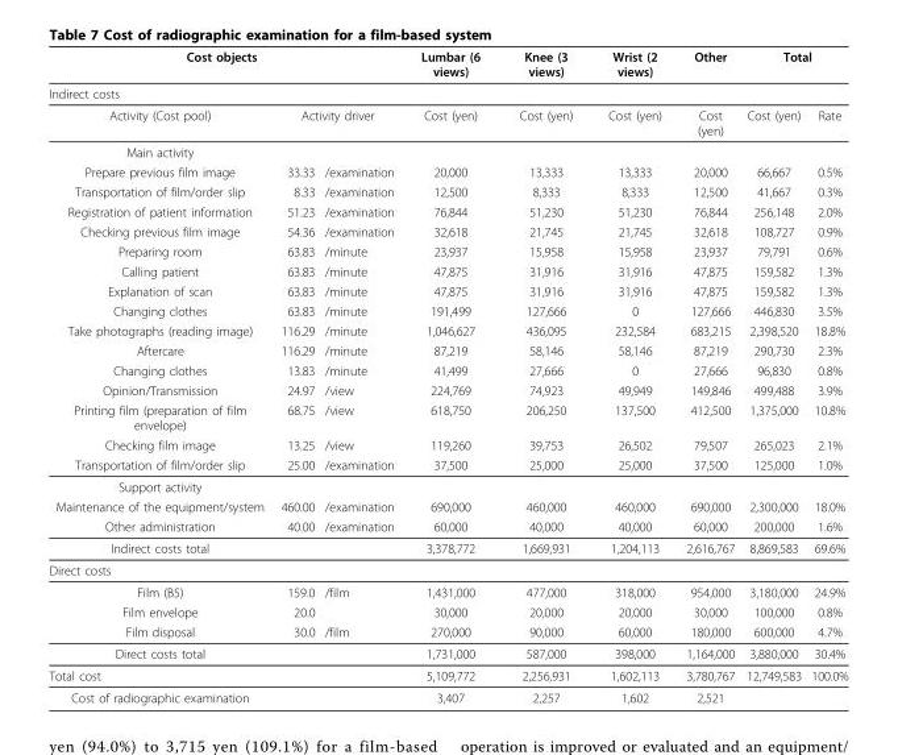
<table><thead><tr><td colspan="3">Cost objects</td><td rowspan="2">Lumbar (6 views)</td><td rowspan="2">Knee (3 views)</td><td rowspan="2">Wrist (2 views)</td><td rowspan="2">Other</td><td colspan="2">Total</td></tr><tr><td>Indirect costs</td><td></td><td></td><td></td><td></td></tr></thead><tbody><tr><td>Activity (Cost pool)</td><td colspan="2">Activity driver</td><td>Cost (yen)</td><td>Cost (yen)</td><td>Cost (yen)</td><td>Cost (yen)</td><td>Cost (yen)</td><td>Rate</td></tr><tr><td colspan="9">Main activity</td></tr><tr><td>Prepare previous film image</td><td>33.33</td><td>/examination</td><td>20,000</td><td>13,333</td><td>13,333</td><td>20,000</td><td>66,667</td><td>0.5%</td></tr><tr><td>Transportation of film/order slip</td><td>8.33</td><td>/examination</td><td>12,500</td><td>8,333</td><td>8,333</td><td>12,500</td><td>41,667</td><td>0.3%</td></tr><tr><td>Registration of patient information</td><td>51.23</td><td>/examination</td><td>76,844</td><td>51,230</td><td>51,230</td><td>76,844</td><td>256,148</td><td>2.0%</td></tr><tr><td>Checking previous film image</td><td>54.36</td><td>/examination</td><td>32,618</td><td>21,745</td><td>21,745</td><td>32,618</td><td>108,727</td><td>0.9%</td></tr><tr><td>Preparing room</td><td>63.83</td><td>/minute</td><td>23,937</td><td>15,958</td><td>15,958</td><td>23,937</td><td>79,791</td><td>0.6%</td></tr><tr><td>Calling patient</td><td>63.83</td><td>/minute</td><td>47,875</td><td>31,916</td><td>31,916</td><td>47,875</td><td>159,582</td><td>1.3%</td></tr><tr><td>Explanation of scan</td><td>63.83</td><td>/minute</td><td>47,875</td><td>31,916</td><td>31,916</td><td>47,875</td><td>159,582</td><td>1.3%</td></tr><tr><td>Changing clothes</td><td>63.83</td><td>/minute</td><td>191,499</td><td>127,666</td><td>0</td><td>127,666</td><td>446,830</td><td>3.5%</td></tr><tr><td>Take photographs (reading image)</td><td>116.29</td><td>/minute</td><td>1,046,627</td><td>436,095</td><td>232,584</td><td>683,215</td><td>2,398,520</td><td>18.8%</td></tr><tr><td>Aftercare</td><td>116.29</td><td>/minute</td><td>87,219</td><td>58,146</td><td>58,146</td><td>87,219</td><td>290,730</td><td>2.3%</td></tr><tr><td>Changing clothes</td><td>13.83</td><td>/minute</td><td>41,499</td><td>27,666</td><td>0</td><td>27,666</td><td>96,830</td><td>0.8%</td></tr><tr><td>Opinion/Transmission</td><td>24.97</td><td>/view</td><td>224,769</td><td>74,923</td><td>49,949</td><td>149,846</td><td>499,488</td><td>3.9%</td></tr><tr><td>Printing film (preparation of film envelope)</td><td>68.75</td><td>/view</td><td>618,750</td><td>206,250</td><td>137,500</td><td>412,500</td><td>1,375,000</td><td>10.8%</td></tr><tr><td>Checking film image</td><td>13.25</td><td>/view</td><td>119,260</td><td>39,753</td><td>26,502</td><td>79,507</td><td>265,023</td><td>2.1%</td></tr><tr><td>Transportation of film/order slip</td><td>25.00</td><td>/examination</td><td>37,500</td><td>25,000</td><td>25,000</td><td>37,500</td><td>125,000</td><td>1.0%</td></tr><tr><td colspan="9">Support activity</td></tr><tr><td>Maintenance of the equipment/system</td><td>460.00</td><td>/examination</td><td>690,000</td><td>460,000</td><td>460,000</td><td>690,000</td><td>2,300,000</td><td>18.0%</td></tr><tr><td>Other administration</td><td>40.00</td><td>/examination</td><td>60,000</td><td>40,000</td><td>40,000</td><td>60,000</td><td>200,000</td><td>1.6%</td></tr><tr><td>Indirect costs total</td><td></td><td></td><td>3,378,772</td><td>1,669,931</td><td>1,204,113</td><td>2,616,767</td><td>8,869,583</td><td>69.6%</td></tr><tr><td colspan="9">Direct costs</td></tr><tr><td>Film (B5)</td><td>159.0</td><td>/film</td><td>1,431,000</td><td>477,000</td><td>318,000</td><td>954,000</td><td>3,180,000</td><td>24.9%</td></tr><tr><td>Film envelope</td><td>20.0</td><td></td><td>30,000</td><td>20,000</td><td>20,000</td><td>30,000</td><td>100,000</td><td>0.8%</td></tr><tr><td>Film disposal</td><td>30.0</td><td>/film</td><td>270,000</td><td>90,000</td><td>60,000</td><td>180,000</td><td>600,000</td><td>4.7%</td></tr><tr><td>Direct costs total</td><td></td><td></td><td>1,731,000</td><td>587,000</td><td>398,000</td><td>1,164,000</td><td>3,880,000</td><td>30.4%</td></tr><tr><td>Total cost</td><td></td><td></td><td>5,109,772</td><td>2,256,931</td><td>1,602,113</td><td>3,780,767</td><td>12,749,583</td><td>100.0%</td></tr><tr><td>Cost of radiographic examination</td><td></td><td></td><td>3,407</td><td>2,257</td><td>1,602</td><td>2,521</td><td></td><td></td></tr></tbody></table>